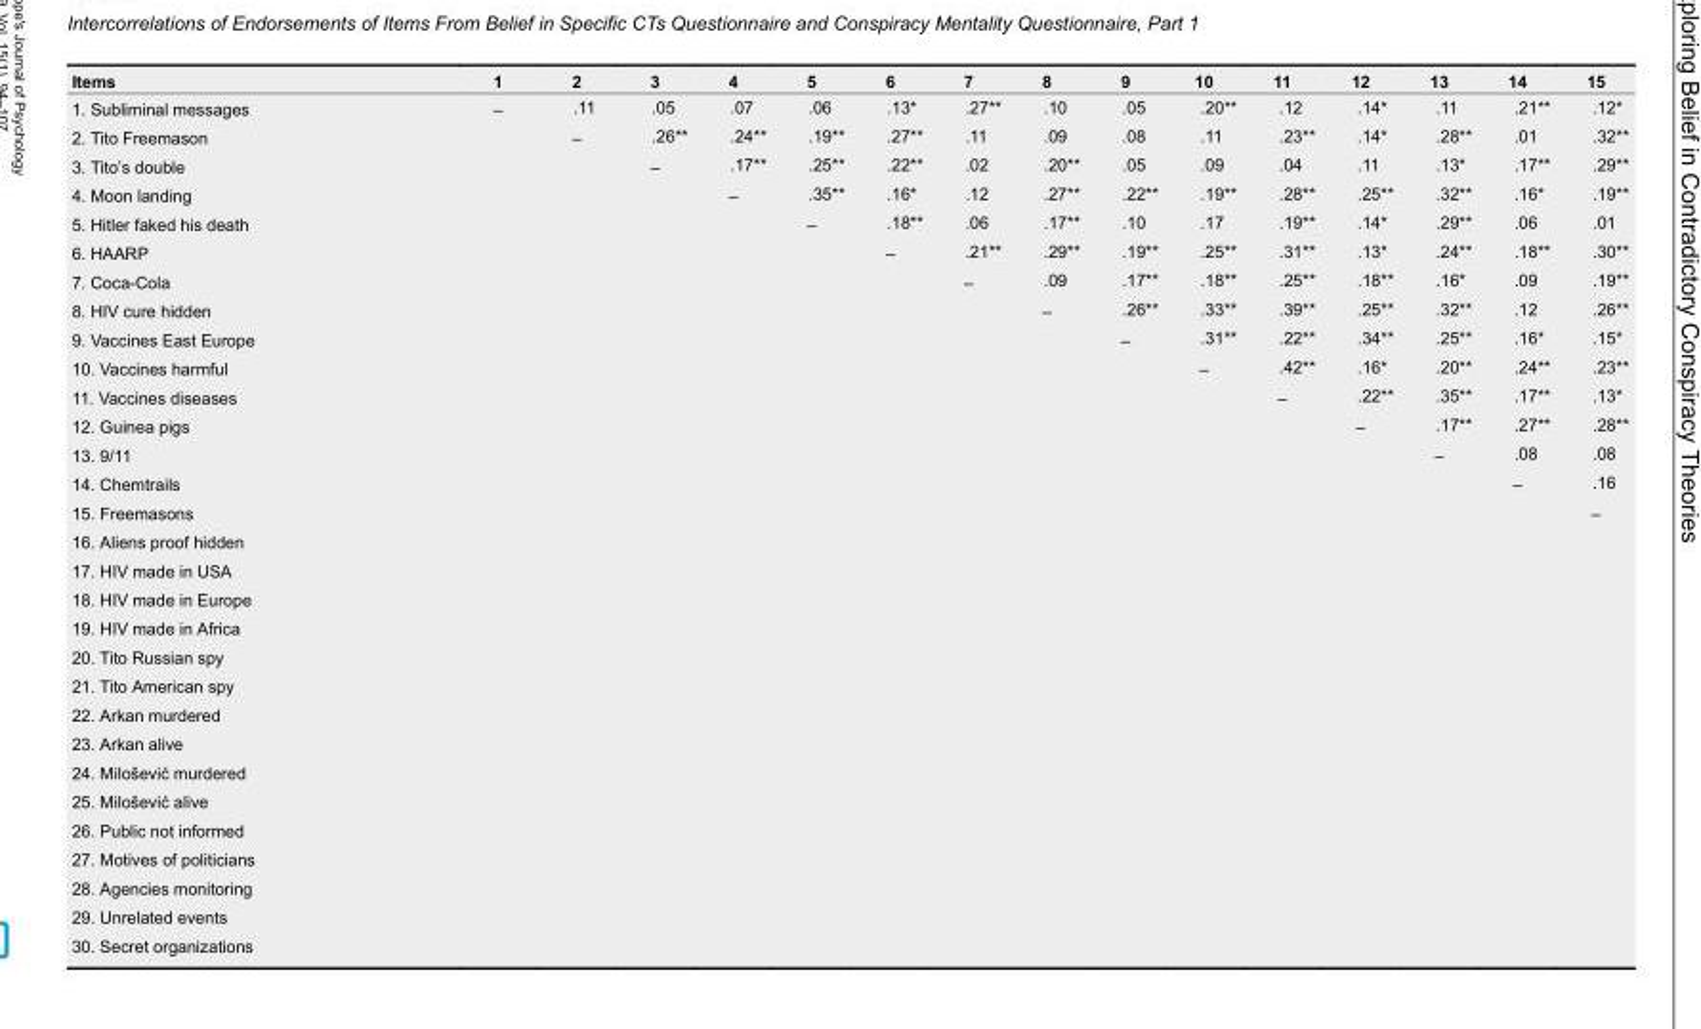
<table><thead><tr><td>Items</td><td>1</td><td>2</td><td>3</td><td>4</td><td>5</td><td>6</td><td>7</td><td>8</td><td>9</td><td>10</td><td>11</td><td>12</td><td>13</td><td>14</td><td>15</td></tr></thead><tbody><tr><td>1. Subliminal messages</td><td>–</td><td>.11</td><td>.05</td><td>.07</td><td>.06</td><td>.13*</td><td>.27**</td><td>.10</td><td>.05</td><td>.20**</td><td>.12</td><td>.14*</td><td>.11</td><td>.21**</td><td>.12*</td></tr><tr><td>2. Tito Freemason</td><td></td><td>–</td><td>.26**</td><td>.24**</td><td>.19**</td><td>.27**</td><td>.11</td><td>.09</td><td>.08</td><td>.11</td><td>.23**</td><td>.14*</td><td>.28**</td><td>.01</td><td>.32**</td></tr><tr><td>3. Tito’s double</td><td></td><td></td><td>–</td><td>.17**</td><td>.25**</td><td>.22**</td><td>.02</td><td>.20**</td><td>.05</td><td>.09</td><td>.04</td><td>.11</td><td>.13*</td><td>.17**</td><td>.29**</td></tr><tr><td>4. Moon landing</td><td></td><td></td><td></td><td>–</td><td>.35**</td><td>.16*</td><td>.12</td><td>.27**</td><td>.22**</td><td>.19**</td><td>.28**</td><td>.25**</td><td>.32**</td><td>.16*</td><td>.19**</td></tr><tr><td>5. Hitler faked his death</td><td></td><td></td><td></td><td></td><td>–</td><td>.18**</td><td>.06</td><td>.17**</td><td>.10</td><td>.17</td><td>.19**</td><td>.14*</td><td>.29**</td><td>.06</td><td>.01</td></tr><tr><td>6. HAARP</td><td></td><td></td><td></td><td></td><td></td><td>–</td><td>.21**</td><td>.29**</td><td>.19**</td><td>.25**</td><td>.31**</td><td>.13*</td><td>.24**</td><td>.18**</td><td>.30**</td></tr><tr><td>7. Coca-Cola</td><td></td><td></td><td></td><td></td><td></td><td></td><td>–</td><td>.09</td><td>.17**</td><td>.18**</td><td>.25**</td><td>.18**</td><td>.16*</td><td>.09</td><td>.19**</td></tr><tr><td>8. HIV cure hidden</td><td></td><td></td><td></td><td></td><td></td><td></td><td></td><td>–</td><td>.26**</td><td>.33**</td><td>.39**</td><td>.25**</td><td>.32**</td><td>.12</td><td>.26**</td></tr><tr><td>9. Vaccines East Europe</td><td></td><td></td><td></td><td></td><td></td><td></td><td></td><td></td><td>–</td><td>.31**</td><td>.22**</td><td>.34**</td><td>.25**</td><td>.16*</td><td>.15*</td></tr><tr><td>10. Vaccines harmful</td><td></td><td></td><td></td><td></td><td></td><td></td><td></td><td></td><td></td><td>–</td><td>.42**</td><td>.16*</td><td>.20**</td><td>.24**</td><td>.23**</td></tr><tr><td>11. Vaccines diseases</td><td></td><td></td><td></td><td></td><td></td><td></td><td></td><td></td><td></td><td></td><td>–</td><td>.22**</td><td>.35**</td><td>.17**</td><td>.13*</td></tr><tr><td>12. Guinea pigs</td><td></td><td></td><td></td><td></td><td></td><td></td><td></td><td></td><td></td><td></td><td></td><td>–</td><td>.17**</td><td>.27**</td><td>.28**</td></tr><tr><td>13. 9/11</td><td></td><td></td><td></td><td></td><td></td><td></td><td></td><td></td><td></td><td></td><td></td><td></td><td>–</td><td>.08</td><td>.08</td></tr><tr><td>14. Chemtrails</td><td></td><td></td><td></td><td></td><td></td><td></td><td></td><td></td><td></td><td></td><td></td><td></td><td></td><td>–</td><td>.16</td></tr><tr><td>15. Freemasons</td><td></td><td></td><td></td><td></td><td></td><td></td><td></td><td></td><td></td><td></td><td></td><td></td><td></td><td></td><td>–</td></tr><tr><td colspan="16">16. Aliens proof hidden</td></tr><tr><td colspan="16">17. HIV made in USA</td></tr><tr><td colspan="16">18. HIV made in Europe</td></tr><tr><td colspan="16">19. HIV made in Africa</td></tr><tr><td colspan="16">20. Tito Russian spy</td></tr><tr><td colspan="16">21. Tito American spy</td></tr><tr><td colspan="16">22. Arkan murdered</td></tr><tr><td colspan="16">23. Arkan alive</td></tr><tr><td colspan="16">24. Milošević murdered</td></tr><tr><td colspan="16">25. Milošević alive</td></tr><tr><td colspan="16">26. Public not informed</td></tr><tr><td colspan="16">27. Motives of politicians</td></tr><tr><td colspan="16">28. Agencies monitoring</td></tr><tr><td colspan="16">29. Unrelated events</td></tr><tr><td>30. Secret organizations</td><td></td><td></td><td></td><td></td><td></td><td></td><td></td><td></td><td></td><td></td><td></td><td></td><td></td><td></td><td></td></tr></tbody></table>